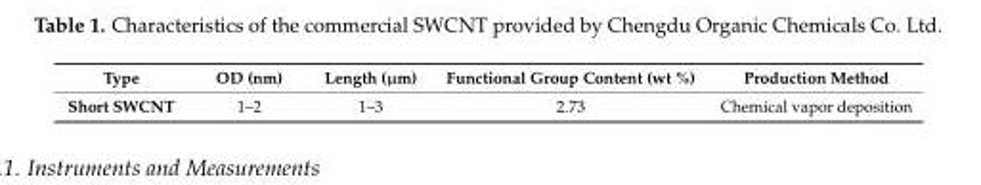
<table><thead><tr><td>Type</td><td>OD (nm)</td><td>Length (µm)</td><td>Functional Group Content (wt %)</td><td>Production Method</td></tr></thead><tbody><tr><td>Short SWCNT</td><td>1–2</td><td>1–3</td><td>2.73</td><td>Chemical vapor deposition</td></tr></tbody></table>